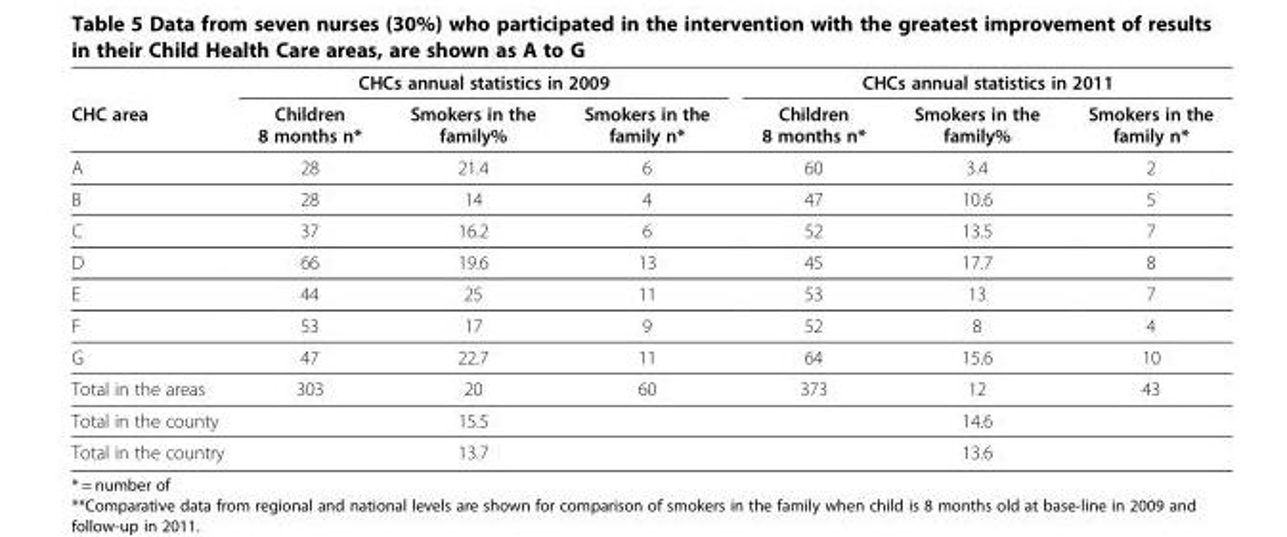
<table><thead><tr><td rowspan="2">CHC area</td><td colspan="3">CHCs annual statistics in 2009</td><td colspan="3">CHCs annual statistics in 2011</td></tr><tr><td>Children 8 months n*</td><td>Smokers in the family%</td><td>Smokers in the family n*</td><td>Children 8 months n*</td><td>Smokers in the family%</td><td>Smokers in the family n*</td></tr></thead><tbody><tr><td>A</td><td>28</td><td>21.4</td><td>6</td><td>60</td><td>3.4</td><td>2</td></tr><tr><td>B</td><td>28</td><td>14</td><td>4</td><td>47</td><td>10.6</td><td>5</td></tr><tr><td>C</td><td>37</td><td>16.2</td><td>6</td><td>52</td><td>13.5</td><td>7</td></tr><tr><td>D</td><td>66</td><td>19.6</td><td>13</td><td>45</td><td>17.7</td><td>8</td></tr><tr><td>E</td><td>44</td><td>25</td><td>11</td><td>53</td><td>13</td><td>7</td></tr><tr><td>F</td><td>53</td><td>17</td><td>9</td><td>52</td><td>8</td><td>4</td></tr><tr><td>G</td><td>47</td><td>22.7</td><td>11</td><td>64</td><td>15.6</td><td>10</td></tr><tr><td>Total in the areas</td><td>303</td><td>20</td><td>60</td><td>373</td><td>12</td><td>43</td></tr><tr><td>Total in the county</td><td></td><td>15.5</td><td></td><td></td><td>14.6</td><td></td></tr><tr><td>Total in the country</td><td></td><td>13.7</td><td></td><td></td><td>13.6</td><td></td></tr></tbody></table>